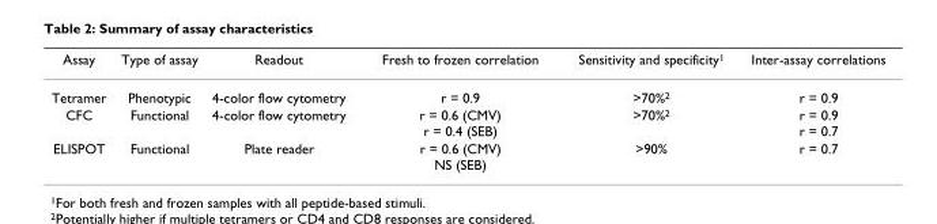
<table><thead><tr><td>Assay</td><td>Type of assay</td><td>Readout</td><td>Fresh to frozen correlation</td><td>Sensitivity and specificity1</td><td>Inter-assay correlations</td></tr></thead><tbody><tr><td>Tetramer</td><td>Phenotypic</td><td>4-color flow cytometry</td><td>r = 0.9</td><td>&gt;70%2</td><td>r = 0.9</td></tr><tr><td>CFC</td><td>Functional</td><td>4-color flow cytometry</td><td>r = 0.6 (CMV) r = 0.4 (SEB)</td><td>&gt;70%2</td><td>r = 0.9 r = 0.7</td></tr><tr><td>ELISPOT</td><td>Functional</td><td>Plate reader</td><td>r = 0.6 (CMV) NS (SEB)</td><td>&gt;90%</td><td>r = 0.7</td></tr></tbody></table>